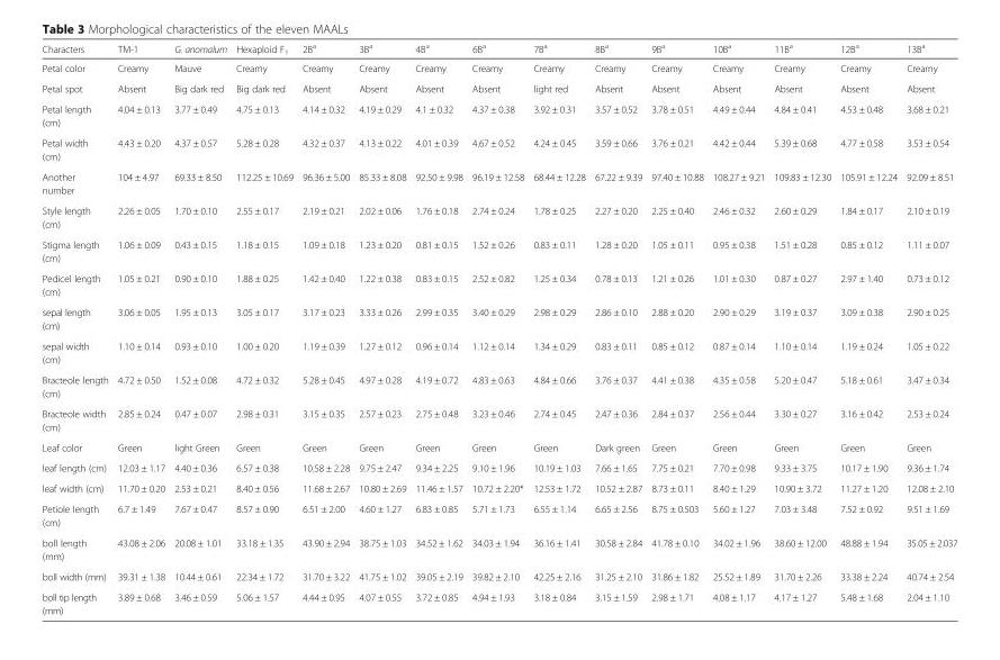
<table><thead><tr><td>Characters</td><td>TM-1</td><td>G. anomalum</td><td>Hexaploid F<sub>1</sub></td><td>2B<sup>a</sup></td><td>3B<sup>a</sup></td><td>4B<sup>a</sup></td><td>6B<sup>a</sup></td><td>7B<sup>a</sup></td><td>8B<sup>a</sup></td><td>9B<sup>a</sup></td><td>10B<sup>a</sup></td><td>11B<sup>a</sup></td><td>12B<sup>a</sup></td><td>13B<sup>a</sup></td></tr></thead><tbody><tr><td>Petal color</td><td>Creamy</td><td>Mauve</td><td>Creamy</td><td>Creamy</td><td>Creamy</td><td>Creamy</td><td>Creamy</td><td>Creamy</td><td>Creamy</td><td>Creamy</td><td>Creamy</td><td>Creamy</td><td>Creamy</td><td>Creamy</td></tr><tr><td>Petal spot</td><td>Absent</td><td>Big dark red</td><td>Big dark red</td><td>Absent</td><td>Absent</td><td>Absent</td><td>Absent</td><td>light red</td><td>Absent</td><td>Absent</td><td>Absent</td><td>Absent</td><td>Absent</td><td>Absent</td></tr><tr><td>Petal length (cm)</td><td>4.04 ± 0.13</td><td>3.77 ± 0.49</td><td>4.75 ± 0.13</td><td>4.14 ± 0.32</td><td>4.19 ± 0.29</td><td>4.1 ± 0.32</td><td>4.37 ± 0.38</td><td>3.92 ± 0.31</td><td>3.57 ± 0.52</td><td>3.78 ± 0.51</td><td>4.49 ± 0.44</td><td>4.84 ± 0.41</td><td>4.53 ± 0.48</td><td>3.68 ± 0.21</td></tr><tr><td>Petal width (cm)</td><td>4.43 ± 0.20</td><td>4.37 ± 0.57</td><td>5.28 ± 0.28</td><td>4.32 ± 0.37</td><td>4.13 ± 0.22</td><td>4.01 ± 0.39</td><td>4.67 ± 0.52</td><td>4.24 ± 0.45</td><td>3.59 ± 0.66</td><td>3.76 ± 0.21</td><td>4.42 ± 0.44</td><td>5.39 ± 0.68</td><td>4.77 ± 0.58</td><td>3.53 ± 0.54</td></tr><tr><td>Another number</td><td>104 ± 4.97</td><td>69.33 ± 8.50</td><td>112.25 ± 10.69</td><td>96.36 ± 5.00</td><td>85.33 ± 8.08</td><td>92.50 ± 9.98</td><td>96.19 ± 12.58</td><td>68.44 ± 12.28</td><td>67.22 ± 9.39</td><td>97.40 ± 10.88</td><td>108.27 ± 9.21</td><td>109.83 ± 12.30</td><td>105.91 ± 12.24</td><td>92.09 ± 8.51</td></tr><tr><td>Style length (cm)</td><td>2.26 ± 0.05</td><td>1.70 ± 0.10</td><td>2.55 ± 0.17</td><td>2.19 ± 0.21</td><td>2.02 ± 0.06</td><td>1.76 ± 0.18</td><td>2.74 ± 0.24</td><td>1.78 ± 0.25</td><td>2.27 ± 0.20</td><td>2.25 ± 0.40</td><td>2.46 ± 0.32</td><td>2.60 ± 0.29</td><td>1.84 ± 0.17</td><td>2.10 ± 0.19</td></tr><tr><td>Stigma length (cm)</td><td>1.06 ± 0.09</td><td>0.43 ± 0.15</td><td>1.18 ± 0.15</td><td>1.09 ± 0.18</td><td>1.23 ± 0.20</td><td>0.81 ± 0.15</td><td>1.52 ± 0.26</td><td>0.83 ± 0.11</td><td>1.28 ± 0.20</td><td>1.05 ± 0.11</td><td>0.95 ± 0.38</td><td>1.51 ± 0.28</td><td>0.85 ± 0.12</td><td>1.11 ± 0.07</td></tr><tr><td>Pedicel length (cm)</td><td>1.05 ± 0.21</td><td>0.90 ± 0.10</td><td>1.88 ± 0.25</td><td>1.42 ± 0.40</td><td>1.22 ± 0.38</td><td>0.83 ± 0.15</td><td>2.52 ± 0.82</td><td>1.25 ± 0.34</td><td>0.78 ± 0.13</td><td>1.21 ± 0.26</td><td>1.01 ± 0.30</td><td>0.87 ± 0.27</td><td>2.97 ± 1.40</td><td>0.73 ± 0.12</td></tr><tr><td>sepal length (cm)</td><td>3.06 ± 0.05</td><td>1.95 ± 0.13</td><td>3.05 ± 0.17</td><td>3.17 ± 0.23</td><td>3.33 ± 0.26</td><td>2.99 ± 0.35</td><td>3.40 ± 0.29</td><td>2.98 ± 0.29</td><td>2.86 ± 0.10</td><td>2.88 ± 0.20</td><td>2.90 ± 0.29</td><td>3.19 ± 0.37</td><td>3.09 ± 0.38</td><td>2.90 ± 0.25</td></tr><tr><td>sepal width (cm)</td><td>1.10 ± 0.14</td><td>0.93 ± 0.10</td><td>1.00 ± 0.20</td><td>1.19 ± 0.39</td><td>1.27 ± 0.12</td><td>0.96 ± 0.14</td><td>1.12 ± 0.14</td><td>1.34 ± 0.29</td><td>0.83 ± 0.11</td><td>0.85 ± 0.12</td><td>0.87 ± 0.14</td><td>1.10 ± 0.14</td><td>1.19 ± 0.24</td><td>1.05 ± 0.22</td></tr><tr><td>Bracteole length (cm)</td><td>4.72 ± 0.50</td><td>1.52 ± 0.08</td><td>4.72 ± 0.32</td><td>5.28 ± 0.45</td><td>4.97 ± 0.28</td><td>4.19 ± 0.72</td><td>4.83 ± 0.63</td><td>4.84 ± 0.66</td><td>3.76 ± 0.37</td><td>4.41 ± 0.38</td><td>4.35 ± 0.58</td><td>5.20 ± 0.47</td><td>5.18 ± 0.61</td><td>3.47 ± 0.34</td></tr><tr><td>Bracteole width (cm)</td><td>2.85 ± 0.24</td><td>0.47 ± 0.07</td><td>2.98 ± 0.31</td><td>3.15 ± 0.35</td><td>2.57 ± 0.23</td><td>2.75 ± 0.48</td><td>3.23 ± 0.46</td><td>2.74 ± 0.45</td><td>2.47 ± 0.36</td><td>2.84 ± 0.37</td><td>2.56 ± 0.44</td><td>3.30 ± 0.27</td><td>3.16 ± 0.42</td><td>2.53 ± 0.24</td></tr><tr><td>Leaf color</td><td>Green</td><td>light Green</td><td>Green</td><td>Green</td><td>Green</td><td>Green</td><td>Green</td><td>Green</td><td>Dark green</td><td>Green</td><td>Green</td><td>Green</td><td>Green</td><td>Green</td></tr><tr><td>leaf length (cm)</td><td>12.03 ± 1.17</td><td>4.40 ± 0.36</td><td>6.57 ± 0.38</td><td>10.58 ± 2.28</td><td>9.75 ± 2.47</td><td>9.34 ± 2.25</td><td>9.10 ± 1.96</td><td>10.19 ± 1.03</td><td>7.66 ± 1.65</td><td>7.75 ± 0.21</td><td>7.70 ± 0.98</td><td>9.33 ± 3.75</td><td>10.17 ± 1.90</td><td>9.36 ± 1.74</td></tr><tr><td>leaf width (cm)</td><td>11.70 ± 0.20</td><td>2.53 ± 0.21</td><td>8.40 ± 0.56</td><td>11.68 ± 2.67</td><td>10.80 ± 2.69</td><td>11.46 ± 1.57</td><td>10.72 ± 2.20*</td><td>12.53 ± 1.72</td><td>10.52 ± 2.87</td><td>8.73 ± 0.11</td><td>8.40 ± 1.29</td><td>10.90 ± 3.72</td><td>11.27 ± 1.20</td><td>12.08 ± 2.10</td></tr><tr><td>Petiole length (cm)</td><td>6.7 ± 1.49</td><td>7.67 ± 0.47</td><td>8.57 ± 0.90</td><td>6.51 ± 2.00</td><td>4.60 ± 1.27</td><td>6.83 ± 0.85</td><td>5.71 ± 1.73</td><td>6.55 ± 1.14</td><td>6.65 ± 2.56</td><td>8.75 ± 0.503</td><td>5.60 ± 1.27</td><td>7.03 ± 3.48</td><td>7.52 ± 0.92</td><td>9.51 ± 1.69</td></tr><tr><td>boll length (mm)</td><td>43.08 ± 2.06</td><td>20.08 ± 1.01</td><td>33.18 ± 1.35</td><td>43.90 ± 2.94</td><td>38.75 ± 1.03</td><td>34.52 ± 1.62</td><td>34.03 ± 1.94</td><td>36.16 ± 1.41</td><td>30.58 ± 2.84</td><td>41.78 ± 0.10</td><td>34.02 ± 1.96</td><td>38.60 ± 12.00</td><td>48.88 ± 1.94</td><td>35.05 ± 2.037</td></tr><tr><td>boll width (mm)</td><td>39.31 ± 1.38</td><td>10.44 ± 0.61</td><td>22.34 ± 1.72</td><td>31.70 ± 3.22</td><td>41.75 ± 1.02</td><td>39.05 ± 2.19</td><td>39.82 ± 2.10</td><td>42.25 ± 2.16</td><td>31.25 ± 2.10</td><td>31.86 ± 1.82</td><td>25.52 ± 1.89</td><td>31.70 ± 2.26</td><td>33.38 ± 2.24</td><td>40.74 ± 2.54</td></tr><tr><td>boll tip length (mm)</td><td>3.89 ± 0.68</td><td>3.46 ± 0.59</td><td>5.06 ± 1.57</td><td>4.44 ± 0.95</td><td>4.07 ± 0.55</td><td>3.72 ± 0.85</td><td>4.94 ± 1.93</td><td>3.18 ± 0.84</td><td>3.15 ± 1.59</td><td>2.98 ± 1.71</td><td>4.08 ± 1.17</td><td>4.17 ± 1.27</td><td>5.48 ± 1.68</td><td>2.04 ± 1.10</td></tr></tbody></table>